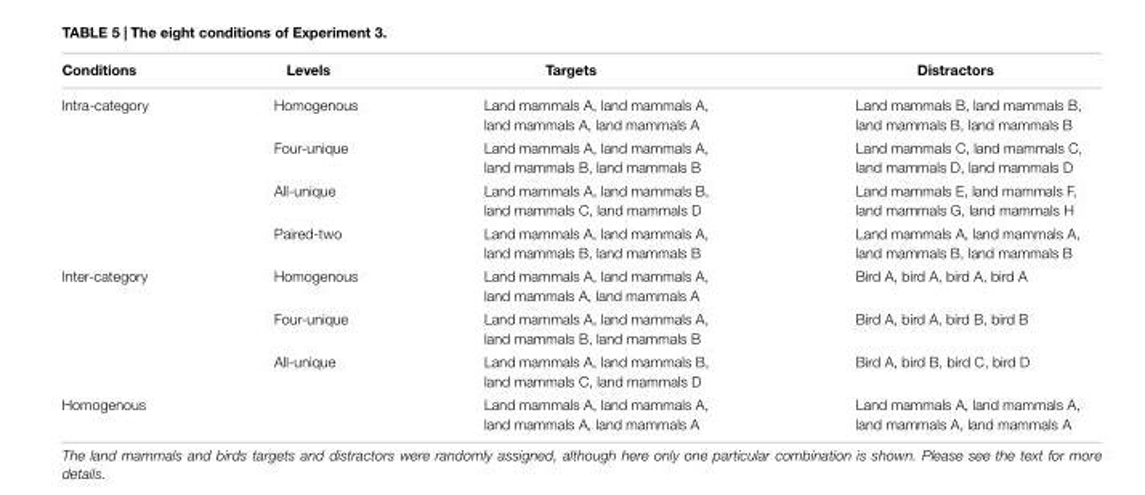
<table><thead><tr><td>Conditions</td><td>Levels</td><td>Targets</td><td>Distractors</td></tr></thead><tbody><tr><td rowspan="4">Intra-category</td><td>Homogenous</td><td>Land mammals A, land mammals A, land mammals A, land mammals A</td><td>Land mammals B, land mammals B, land mammals B, land mammals B</td></tr><tr><td>Four-unique</td><td>Land mammals A, land mammals A, land mammals B, land mammals B</td><td>Land mammals C, land mammals C, land mammals D, land mammals D</td></tr><tr><td>All-unique</td><td>Land mammals A, land mammals B, land mammals C, land mammals D</td><td>Land mammals E, land mammals F, land mammals G, land mammals H</td></tr><tr><td>Paired-two</td><td>Land mammals A, land mammals A, land mammals B, land mammals B</td><td>Land mammals A, land mammals A, land mammals B, land mammals B</td></tr><tr><td rowspan="3">Inter-category</td><td>Homogenous</td><td>Land mammals A, land mammals A, land mammals A, land mammals A</td><td>Bird A, bird A, bird A, bird A</td></tr><tr><td>Four-unique</td><td>Land mammals A, land mammals A, land mammals B, land mammals B</td><td>Bird A, bird A, bird B, bird B</td></tr><tr><td>All-unique</td><td>Land mammals A, land mammals B, land mammals C, land mammals D</td><td>Bird A, bird B, bird C, bird D</td></tr><tr><td>Homogenous</td><td></td><td>Land mammals A, land mammals A, land mammals A, land mammals A</td><td>Land mammals A, land mammals A, land mammals A, land mammals A</td></tr></tbody></table>